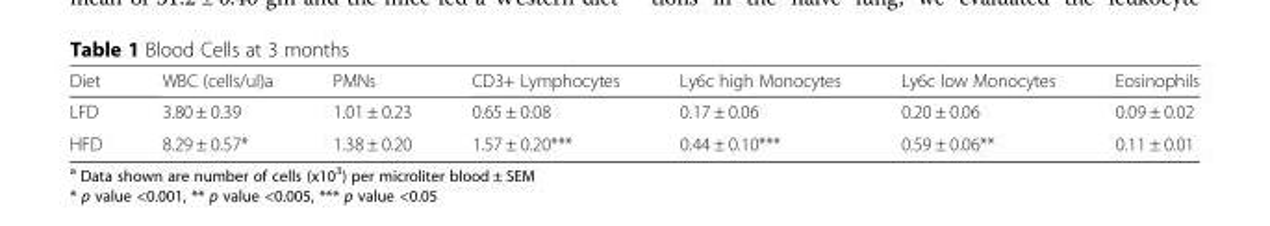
<table><thead><tr><td>Diet</td><td>WBC (cells/ul)a</td><td>PMNs</td><td>CD3+ Lymphocytes</td><td>Ly6c high Monocytes</td><td>Ly6c low Monocytes</td><td>Eosinophils</td></tr></thead><tbody><tr><td>LFD</td><td>3.80 ± 0.39</td><td>1.01 ± 0.23</td><td>0.65 ± 0.08</td><td>0.17 ± 0.06</td><td>0.20 ± 0.06</td><td>0.09 ± 0.02</td></tr><tr><td>HFD</td><td>8.29 ± 0.57*</td><td>1.38 ± 0.20</td><td>1.57 ± 0.20***</td><td>0.44 ± 0.10***</td><td>0.59 ± 0.06**</td><td>0.11 ± 0.01</td></tr></tbody></table>